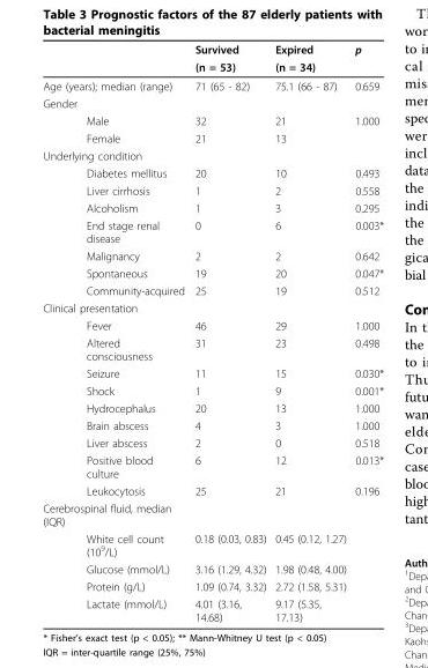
<table><thead><tr><td></td><td>Survived</td><td>Expired</td><td>p</td></tr></thead><tbody><tr><td></td><td>(n = 53)</td><td>(n = 34)</td><td></td></tr><tr><td>Age (years); median (range)</td><td>71 (65 - 82)</td><td>75.1 (66 - 87)</td><td>0.659</td></tr><tr><td colspan="4">Gender</td></tr><tr><td>Male</td><td>32</td><td>21</td><td>1.000</td></tr><tr><td>Female</td><td>21</td><td>13</td><td></td></tr><tr><td colspan="4">Underlying condition</td></tr><tr><td>Diabetes mellitus</td><td>20</td><td>10</td><td>0.493</td></tr><tr><td>Liver cirrhosis</td><td>1</td><td>2</td><td>0.558</td></tr><tr><td>Alcoholism</td><td>1</td><td>3</td><td>0.295</td></tr><tr><td>End stage renal disease</td><td>0</td><td>6</td><td>0.003*</td></tr><tr><td>Malignancy</td><td>2</td><td>2</td><td>0.642</td></tr><tr><td>Spontaneous</td><td>19</td><td>20</td><td>0.047*</td></tr><tr><td>Community-acquired</td><td>25</td><td>19</td><td>0.512</td></tr><tr><td colspan="4">Clinical presentation</td></tr><tr><td>Fever</td><td>46</td><td>29</td><td>1.000</td></tr><tr><td>Altered consciousness</td><td>31</td><td>23</td><td>0.498</td></tr><tr><td>Seizure</td><td>11</td><td>15</td><td>0.030*</td></tr><tr><td>Shock</td><td>1</td><td>9</td><td>0.001*</td></tr><tr><td>Hydrocephalus</td><td>20</td><td>13</td><td>1.000</td></tr><tr><td>Brain abscess</td><td>4</td><td>3</td><td>1.000</td></tr><tr><td>Liver abscess</td><td>2</td><td>0</td><td>0.518</td></tr><tr><td>Positive blood culture</td><td>6</td><td>12</td><td>0.013*</td></tr><tr><td>Leukocytosis</td><td>25</td><td>21</td><td>0.196</td></tr><tr><td colspan="4">Cerebrospinal fluid, median (IQR)</td></tr><tr><td>White cell count (10<sup>9</sup>/L)</td><td>0.18 (0.03, 0.83)</td><td>0.45 (0.12, 1.27)</td><td></td></tr><tr><td>Glucose (mmol/L)</td><td>3.16 (1.29, 4.32)</td><td>1.98 (0.48, 4.00)</td><td></td></tr><tr><td>Protein (g/L)</td><td>1.09 (0.74, 3.32)</td><td>2.72 (1.58, 5.31)</td><td></td></tr><tr><td>Lactate (mmol/L)</td><td>4.01 (3.16, 14.68)</td><td>9.17 (5.35, 17.13)</td><td></td></tr></tbody></table>